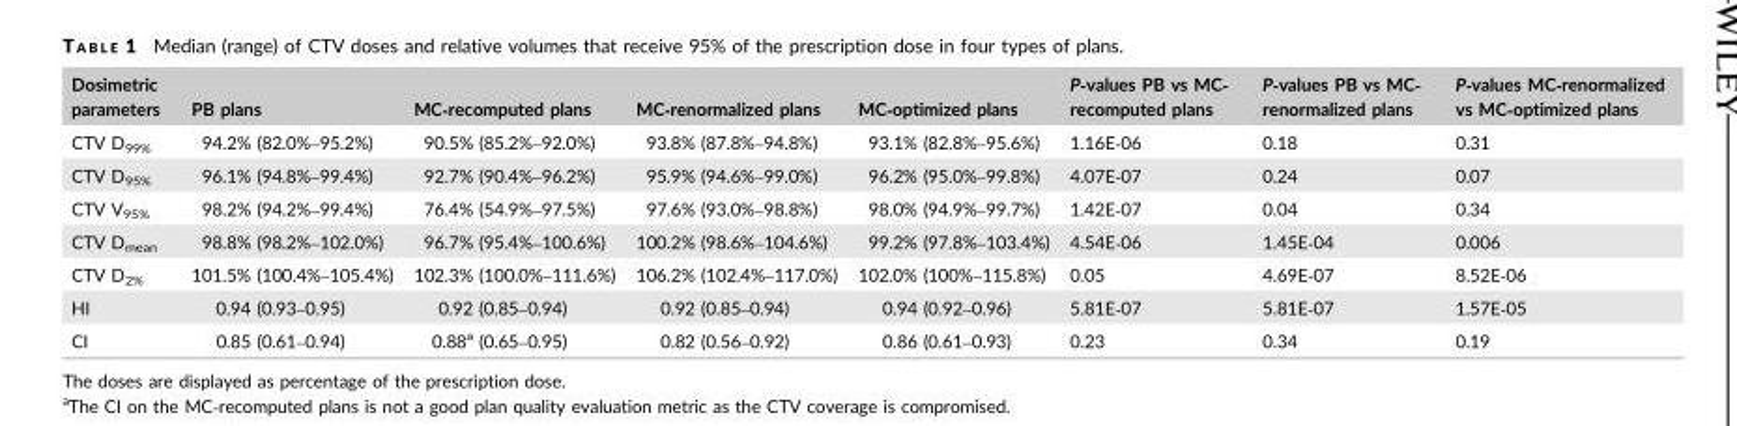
<table><thead><tr><td>Dosimetric parameters</td><td>PB plans</td><td>MC‐recomputed plans</td><td>MC‐renormalized plans</td><td>MC‐optimized plans</td><td>P‐values PB vs MC‐ recomputed plans</td><td>P‐values PB vs MC‐ renormalized plans</td><td>P‐values MC‐renormalized vs MC‐optimized plans</td></tr></thead><tbody><tr><td>CTV D<sub>99%</sub></td><td>94.2% (82.0%–95.2%)</td><td>90.5% (85.2%–92.0%)</td><td>93.8% (87.8%–94.8%)</td><td>93.1% (82.8%–95.6%)</td><td>1.16E‐06</td><td>0.18</td><td>0.31</td></tr><tr><td>CTV D<sub>95%</sub></td><td>96.1% (94.8%–99.4%)</td><td>92.7% (90.4%–96.2%)</td><td>95.9% (94.6%–99.0%)</td><td>96.2% (95.0%–99.8%)</td><td>4.07E‐07</td><td>0.24</td><td>0.07</td></tr><tr><td>CTV V<sub>95%</sub></td><td>98.2% (94.2%–99.4%)</td><td>76.4% (54.9%–97.5%)</td><td>97.6% (93.0%–98.8%)</td><td>98.0% (94.9%–99.7%)</td><td>1.42E‐07</td><td>0.04</td><td>0.34</td></tr><tr><td>CTV D<sub>mean</sub></td><td>98.8% (98.2%–102.0%)</td><td>96.7% (95.4%–100.6%)</td><td>100.2% (98.6%–104.6%)</td><td>99.2% (97.8%–103.4%)</td><td>4.54E‐06</td><td>1.45E‐04</td><td>0.006</td></tr><tr><td>CTV D<sub>2%</sub></td><td>101.5% (100.4%–105.4%)</td><td>102.3% (100.0%–111.6%)</td><td>106.2% (102.4%–117.0%)</td><td>102.0% (100%–115.8%)</td><td>0.05</td><td>4.69E‐07</td><td>8.52E‐06</td></tr><tr><td>HI</td><td>0.94 (0.93–0.95)</td><td>0.92 (0.85–0.94)</td><td>0.92 (0.85–0.94)</td><td>0.94 (0.92–0.96)</td><td>5.81E‐07</td><td>5.81E‐07</td><td>1.57E‐05</td></tr><tr><td>CI</td><td>0.85 (0.61–0.94)</td><td>0.88<sup>a</sup> (0.65–0.95)</td><td>0.82 (0.56–0.92)</td><td>0.86 (0.61–0.93)</td><td>0.23</td><td>0.34</td><td>0.19</td></tr></tbody></table>